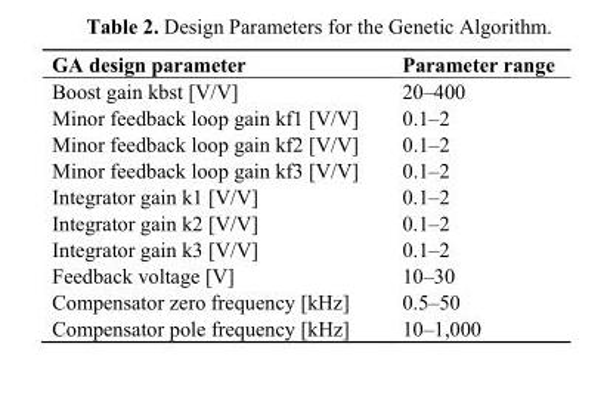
<table><thead><tr><td>GA design parameter</td><td>Parameter range</td></tr></thead><tbody><tr><td>Boost gain kbst [V/V]</td><td>20–400</td></tr><tr><td>Minor feedback loop gain kf1 [V/V]</td><td>0.1–2</td></tr><tr><td>Minor feedback loop gain kf2 [V/V]</td><td>0.1–2</td></tr><tr><td>Minor feedback loop gain kf3 [V/V]</td><td>0.1–2</td></tr><tr><td>Integrator gain k1 [V/V]</td><td>0.1–2</td></tr><tr><td>Integrator gain k2 [V/V]</td><td>0.1–2</td></tr><tr><td>Integrator gain k3 [V/V]</td><td>0.1–2</td></tr><tr><td>Feedback voltage [V]</td><td>10–30</td></tr><tr><td>Compensator zero frequency [kHz]</td><td>0.5–50</td></tr><tr><td>Compensator pole frequency [kHz]</td><td>10–1,000</td></tr></tbody></table>